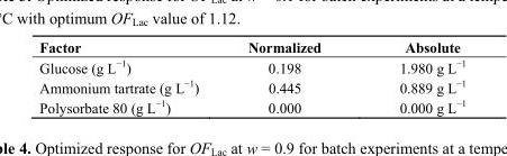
<table><thead><tr><td>Factor</td><td>Normalized</td><td>Absolute</td></tr></thead><tbody><tr><td>Glucose (g L<sup>−1</sup>)</td><td>0.198</td><td>1.980 g L<sup>−1</sup></td></tr><tr><td>Ammonium tartrate (g L<sup>−1</sup>)</td><td>0.445</td><td>0.889 g L<sup>−1</sup></td></tr><tr><td>Polysorbate 80 (g L<sup>−1</sup>)</td><td>0.000</td><td>0.000 g L<sup>−1</sup></td></tr></tbody></table>